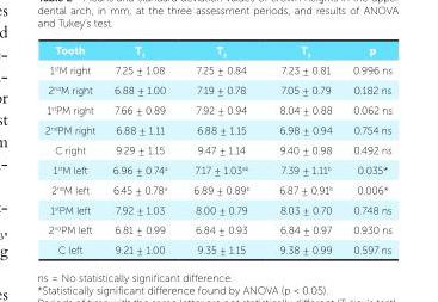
<table><thead><tr><td>Tooth</td><td>T<sub>1</sub></td><td>T<sub>2</sub></td><td>T<sub>3</sub></td><td>p</td></tr></thead><tbody><tr><td>1<sup>st</sup>M right</td><td>7.25 ± 1.08</td><td>7.25 ± 0.84</td><td>7.23 ± 0.81</td><td>0.996 ns</td></tr><tr><td>2<sup>nd</sup>M right</td><td>6.88 ± 1.00</td><td>7.19 ± 0.78</td><td>7.05 ± 0.79</td><td>0.182 ns</td></tr><tr><td>1<sup>st</sup>PM right</td><td>7.66 ± 0.89</td><td>7.92 ± 0.94</td><td>8.04 ± 0.88</td><td>0.062 ns</td></tr><tr><td>2<sup>nd</sup>PM right</td><td>6.88 ± 1.11</td><td>6.88 ± 1.15</td><td>6.98 ± 0.94</td><td>0.754 ns</td></tr><tr><td>C right</td><td>9.29 ± 1.15</td><td>9.47 ± 1.14</td><td>9.40 ± 0.98</td><td>0.492 ns</td></tr><tr><td>1<sup>st</sup>M left</td><td>6.96 ± 0.74<sup>a</sup></td><td>7.17 ± 1.03<sup>ab</sup></td><td>7.39 ± 1.11<sup>b</sup></td><td>0.035*</td></tr><tr><td>2<sup>nd</sup>M left</td><td>6.45 ± 0.78<sup>a</sup></td><td>6.89 ± 0.89<sup>b</sup></td><td>6.87 ± 0.91<sup>b</sup></td><td>0.006*</td></tr><tr><td>1<sup>st</sup>PM left</td><td>7.92 ± 1.03</td><td>8.00 ± 0.79</td><td>8.03 ± 0.70</td><td>0.748 ns</td></tr><tr><td>2<sup>nd</sup>PM left</td><td>6.81 ± 0.99</td><td>6.84 ± 0.93</td><td>6.84 ± 0.97</td><td>0.930 ns</td></tr><tr><td>C left</td><td>9.21 ± 1.00</td><td>9.35 ± 1.15</td><td>9.38 ± 0.99</td><td>0.597 ns</td></tr></tbody></table>